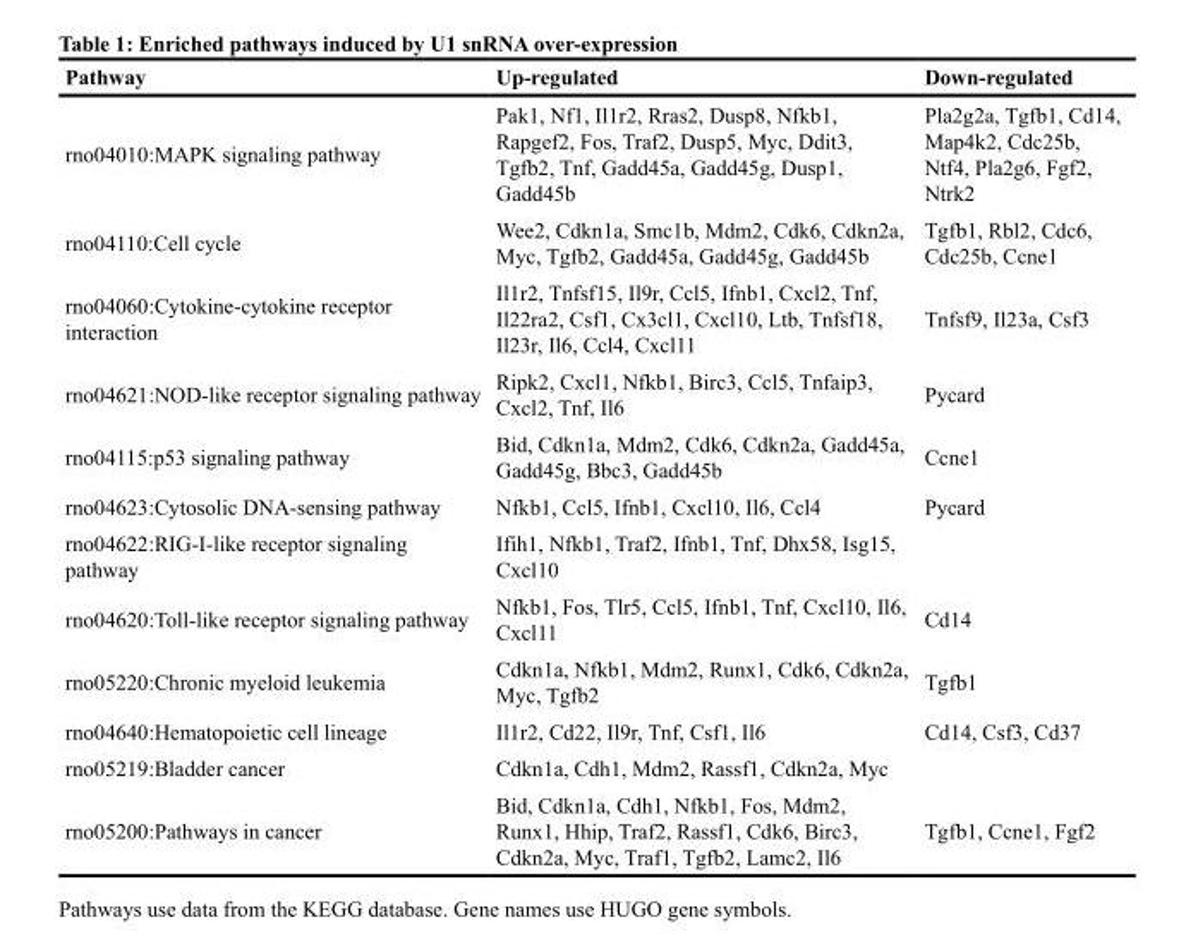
<table><thead><tr><td>Pathway</td><td>Up-regulated</td><td>Down-regulated</td></tr></thead><tbody><tr><td>rno04010:MAPK signaling pathway</td><td>Pak1, Nf1, Il1r2, Rras2, Dusp8, Nfkb1, Rapgef2, Fos, Traf2, Dusp5, Myc, Ddit3, Tgfb2, Tnf, Gadd45a, Gadd45g, Dusp1, Gadd45b</td><td>Pla2g2a, Tgfb1, Cd14, Map4k2, Cdc25b, Ntf4, Pla2g6, Fgf2, Ntrk2</td></tr><tr><td>rno04110:Cell cycle</td><td>Wee2, Cdkn1a, Smc1b, Mdm2, Cdk6, Cdkn2a, Myc, Tgfb2, Gadd45a, Gadd45g, Gadd45b</td><td>Tgfb1, Rbl2, Cdc6, Cdc25b, Ccne1</td></tr><tr><td>rno04060:Cytokine-cytokine receptor interaction</td><td>Il1r2, Tnfsf15, Il9r, Ccl5, Ifnb1, Cxcl2, Tnf, Il22ra2, Csf1, Cx3cl1, Cxcl10, Ltb, Tnfsf18, Il23r, Il6, Ccl4, Cxcl11</td><td>Tnfsf9, Il23a, Csf3</td></tr><tr><td>rno04621:NOD-like receptor signaling pathway</td><td>Ripk2, Cxcl1, Nfkb1, Birc3, Ccl5, Tnfaip3, Cxcl2, Tnf, Il6</td><td>Pycard</td></tr><tr><td>rno04115:p53 signaling pathway</td><td>Bid, Cdkn1a, Mdm2, Cdk6, Cdkn2a, Gadd45a, Gadd45g, Bbc3, Gadd45b</td><td>Ccne1</td></tr><tr><td>rno04623:Cytosolic DNA-sensing pathway</td><td>Nfkb1, Ccl5, Ifnb1, Cxcl10, Il6, Ccl4</td><td>Pycard</td></tr><tr><td>rno04622:RIG-I-like receptor signaling pathway</td><td>Ifih1, Nfkb1, Traf2, Ifnb1, Tnf, Dhx58, Isg15, Cxcl10</td><td></td></tr><tr><td>rno04620:Toll-like receptor signaling pathway</td><td>Nfkb1, Fos, Tlr5, Ccl5, Ifnb1, Tnf, Cxcl10, Il6, Cxcl11</td><td>Cd14</td></tr><tr><td>rno05220:Chronic myeloid leukemia</td><td>Cdkn1a, Nfkb1, Mdm2, Runx1, Cdk6, Cdkn2a, Myc, Tgfb2</td><td>Tgfb1</td></tr><tr><td>rno04640:Hematopoietic cell lineage</td><td>Il1r2, Cd22, Il9r, Tnf, Csf1, Il6</td><td>Cd14, Csf3, Cd37</td></tr><tr><td>rno05219:Bladder cancer</td><td>Cdkn1a, Cdh1, Mdm2, Rassf1, Cdkn2a, Myc</td><td></td></tr><tr><td>rno05200:Pathways in cancer</td><td>Bid, Cdkn1a, Cdh1, Nfkb1, Fos, Mdm2, Runx1, Hhip, Traf2, Rassf1, Cdk6, Birc3, Cdkn2a, Myc, Traf1, Tgfb2, Lamc2, Il6</td><td>Tgfb1, Ccne1, Fgf2</td></tr></tbody></table>